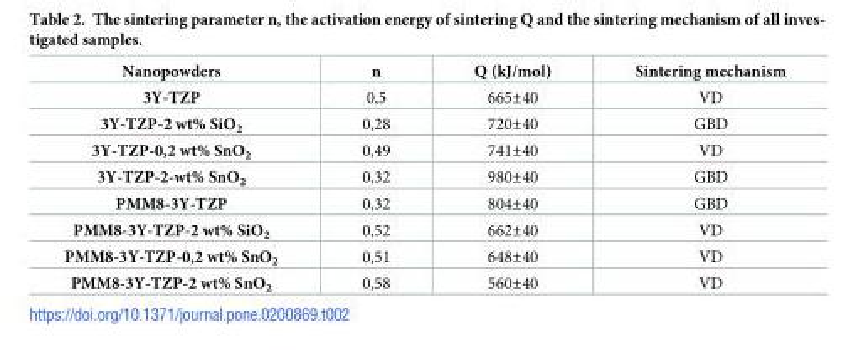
<table><thead><tr><td>Nanopowders</td><td>n</td><td>Q (kJ/mol)</td><td>Sintering mechanism</td></tr></thead><tbody><tr><td>3Y-TZP</td><td>0,5</td><td>665±40</td><td>VD</td></tr><tr><td>3Y-TZP-2 wt% SiO<sub>2</sub></td><td>0,28</td><td>720±40</td><td>GBD</td></tr><tr><td>3Y-TZP-0,2 wt% SnO<sub>2</sub></td><td>0,49</td><td>741±40</td><td>VD</td></tr><tr><td>3Y-TZP-2-wt% SnO<sub>2</sub></td><td>0,32</td><td>980±40</td><td>GBD</td></tr><tr><td>PMM8-3Y-TZP</td><td>0,32</td><td>804±40</td><td>GBD</td></tr><tr><td>PMM8-3Y-TZP-2 wt% SiO<sub>2</sub></td><td>0,52</td><td>662±40</td><td>VD</td></tr><tr><td>PMM8-3Y-TZP-0,2 wt% SnO<sub>2</sub></td><td>0,51</td><td>648±40</td><td>VD</td></tr><tr><td>PMM8-3Y-TZP-2 wt% SnO<sub>2</sub></td><td>0,58</td><td>560±40</td><td>VD</td></tr></tbody></table>